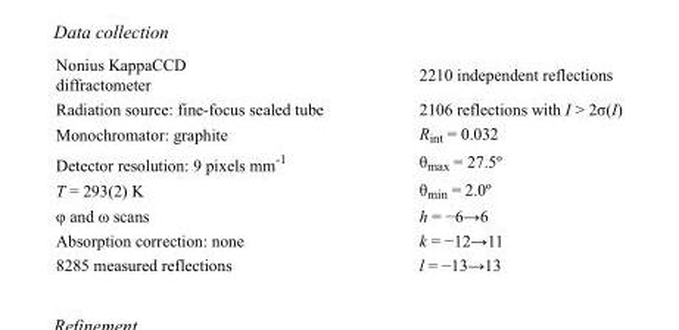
<table><tbody><tr><td>Nonius KappaCCD diffractometer</td><td>2210 independent reflections</td></tr><tr><td>Radiation source: fine-focus sealed tube</td><td>2106 reflections with I &gt; 2σ(I)</td></tr><tr><td>Monochromator: graphite</td><td>R<sub>int</sub> = 0.032</td></tr><tr><td>Detector resolution: 9 pixels mm<sup>-1</sup></td><td>θ<sub>max</sub> = 27.5º</td></tr><tr><td>T = 293(2) K</td><td>θ<sub>min</sub> = 2.0º</td></tr><tr><td>φ and ω scans</td><td>h = −6→6</td></tr><tr><td>Absorption correction: none</td><td>k = −12→11</td></tr><tr><td>8285 measured reflections</td><td>l = −13→13</td></tr></tbody></table>